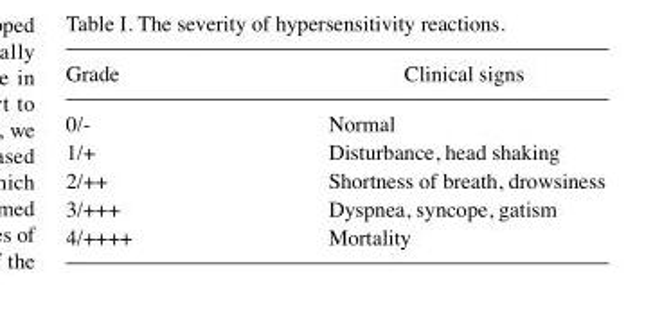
<table><thead><tr><td>Grade</td><td>Clinical signs</td></tr></thead><tbody><tr><td>0/-</td><td>Normal</td></tr><tr><td>1/+</td><td>Disturbance, head shaking</td></tr><tr><td>2/++</td><td>Shortness of breath, drowsiness</td></tr><tr><td>3/+++</td><td>Dyspnea, syncope, gatism</td></tr><tr><td>4/++++</td><td>Mortality</td></tr></tbody></table>